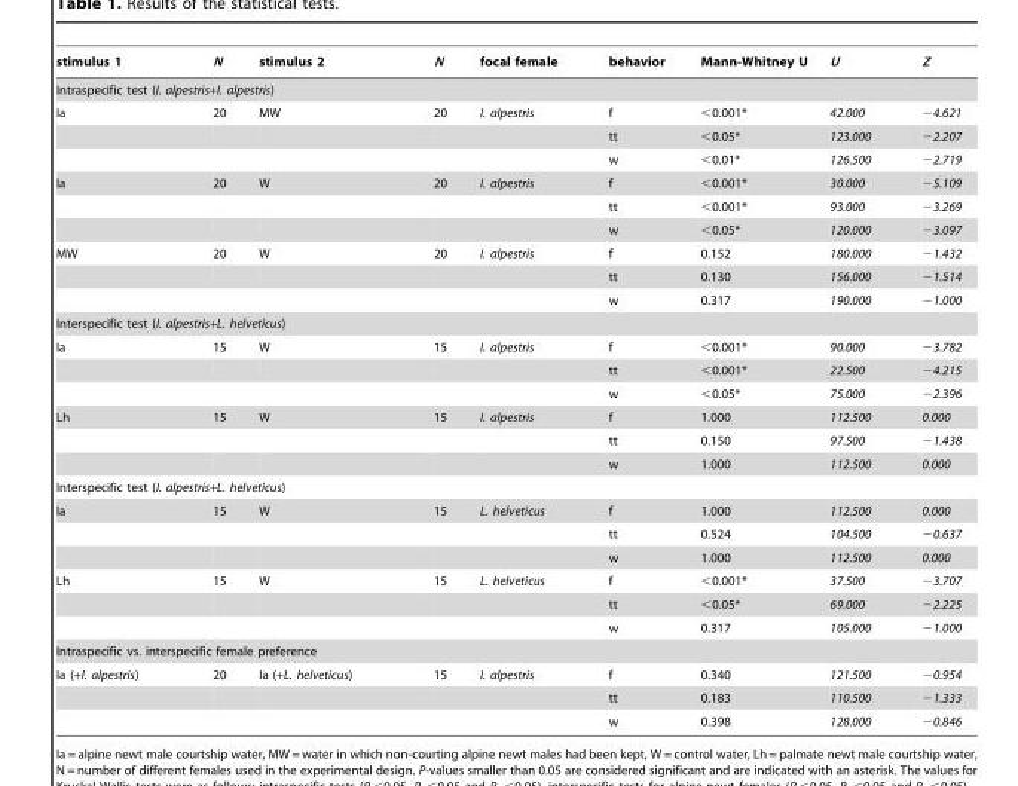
<table><thead><tr><td>stimulus 1</td><td>N</td><td>stimulus 2</td><td>N</td><td>focal female</td><td>behavior</td><td>Mann-Whitney U</td><td>U</td><td>Z</td></tr></thead><tbody><tr><td colspan="9">Intraspecific test (I. alpestris+I. alpestris)</td></tr><tr><td rowspan="3">Ia</td><td>20</td><td>MW</td><td>20</td><td>I. alpestris</td><td>f</td><td>&lt;0.001*</td><td>42.000</td><td>−4.621</td></tr><tr><td></td><td></td><td></td><td></td><td>tt</td><td>&lt;0.05*</td><td>123.000</td><td>−2.207</td></tr><tr><td></td><td></td><td></td><td></td><td>w</td><td>&lt;0.01*</td><td>126.500</td><td>−2.719</td></tr><tr><td rowspan="3">Ia</td><td>20</td><td>W</td><td>20</td><td>I. alpestris</td><td>f</td><td>&lt;0.001*</td><td>30.000</td><td>−5.109</td></tr><tr><td></td><td></td><td></td><td></td><td>tt</td><td>&lt;0.001*</td><td>93.000</td><td>−3.269</td></tr><tr><td></td><td></td><td></td><td></td><td>w</td><td>&lt;0.05*</td><td>120.000</td><td>−3.097</td></tr><tr><td rowspan="3">MW</td><td>20</td><td>W</td><td>20</td><td>I. alpestris</td><td>f</td><td>0.152</td><td>180.000</td><td>−1.432</td></tr><tr><td></td><td></td><td></td><td></td><td>tt</td><td>0.130</td><td>156.000</td><td>−1.514</td></tr><tr><td></td><td></td><td></td><td></td><td>w</td><td>0.317</td><td>190.000</td><td>−1.000</td></tr><tr><td colspan="9">Interspecific test (I. alpestris+L. helveticus)</td></tr><tr><td rowspan="3">Ia</td><td>15</td><td>W</td><td>15</td><td>I. alpestris</td><td>f</td><td>&lt;0.001*</td><td>90.000</td><td>−3.782</td></tr><tr><td></td><td></td><td></td><td></td><td>tt</td><td>&lt;0.001*</td><td>22.500</td><td>−4.215</td></tr><tr><td></td><td></td><td></td><td></td><td>w</td><td>&lt;0.05*</td><td>75.000</td><td>−2.396</td></tr><tr><td rowspan="3">Lh</td><td>15</td><td>W</td><td>15</td><td>I. alpestris</td><td>f</td><td>1.000</td><td>112.500</td><td>0.000</td></tr><tr><td></td><td></td><td></td><td></td><td>tt</td><td>0.150</td><td>97.500</td><td>−1.438</td></tr><tr><td></td><td></td><td></td><td></td><td>w</td><td>1.000</td><td>112.500</td><td>0.000</td></tr><tr><td colspan="9">Interspecific test (I. alpestris+L. helveticus)</td></tr><tr><td rowspan="3">Ia</td><td>15</td><td>W</td><td>15</td><td>L. helveticus</td><td>f</td><td>1.000</td><td>112.500</td><td>0.000</td></tr><tr><td></td><td></td><td></td><td></td><td>tt</td><td>0.524</td><td>104.500</td><td>−0.637</td></tr><tr><td></td><td></td><td></td><td></td><td>w</td><td>1.000</td><td>112.500</td><td>0.000</td></tr><tr><td rowspan="3">Lh</td><td>15</td><td>W</td><td>15</td><td>L. helveticus</td><td>f</td><td>&lt;0.001*</td><td>37.500</td><td>−3.707</td></tr><tr><td></td><td></td><td></td><td></td><td>tt</td><td>&lt;0.05*</td><td>69.000</td><td>−2.225</td></tr><tr><td></td><td></td><td></td><td></td><td>w</td><td>0.317</td><td>105.000</td><td>−1.000</td></tr><tr><td colspan="9">Intraspecific vs. interspecific female preference</td></tr><tr><td rowspan="3">Ia (+I. alpestris)</td><td>20</td><td>Ia (+L. helveticus)</td><td>15</td><td>I. alpestris</td><td>f</td><td>0.340</td><td>121.500</td><td>−0.954</td></tr><tr><td></td><td></td><td></td><td></td><td>tt</td><td>0.183</td><td>110.500</td><td>−1.333</td></tr><tr><td></td><td></td><td></td><td></td><td>w</td><td>0.398</td><td>128.000</td><td>−0.846</td></tr></tbody></table>